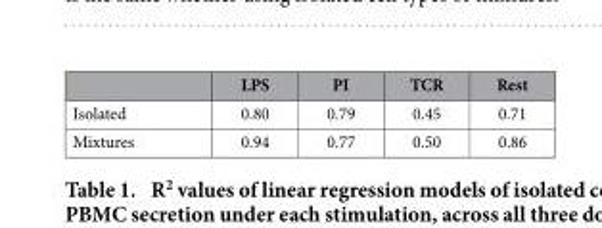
<table><thead><tr><td></td><td>LPS</td><td>PI</td><td>TCR</td><td>Rest</td></tr></thead><tbody><tr><td>Isolated</td><td>0.80</td><td>0.79</td><td>0.45</td><td>0.71</td></tr><tr><td>Mixtures</td><td>0.94</td><td>0.77</td><td>0.50</td><td>0.86</td></tr></tbody></table>